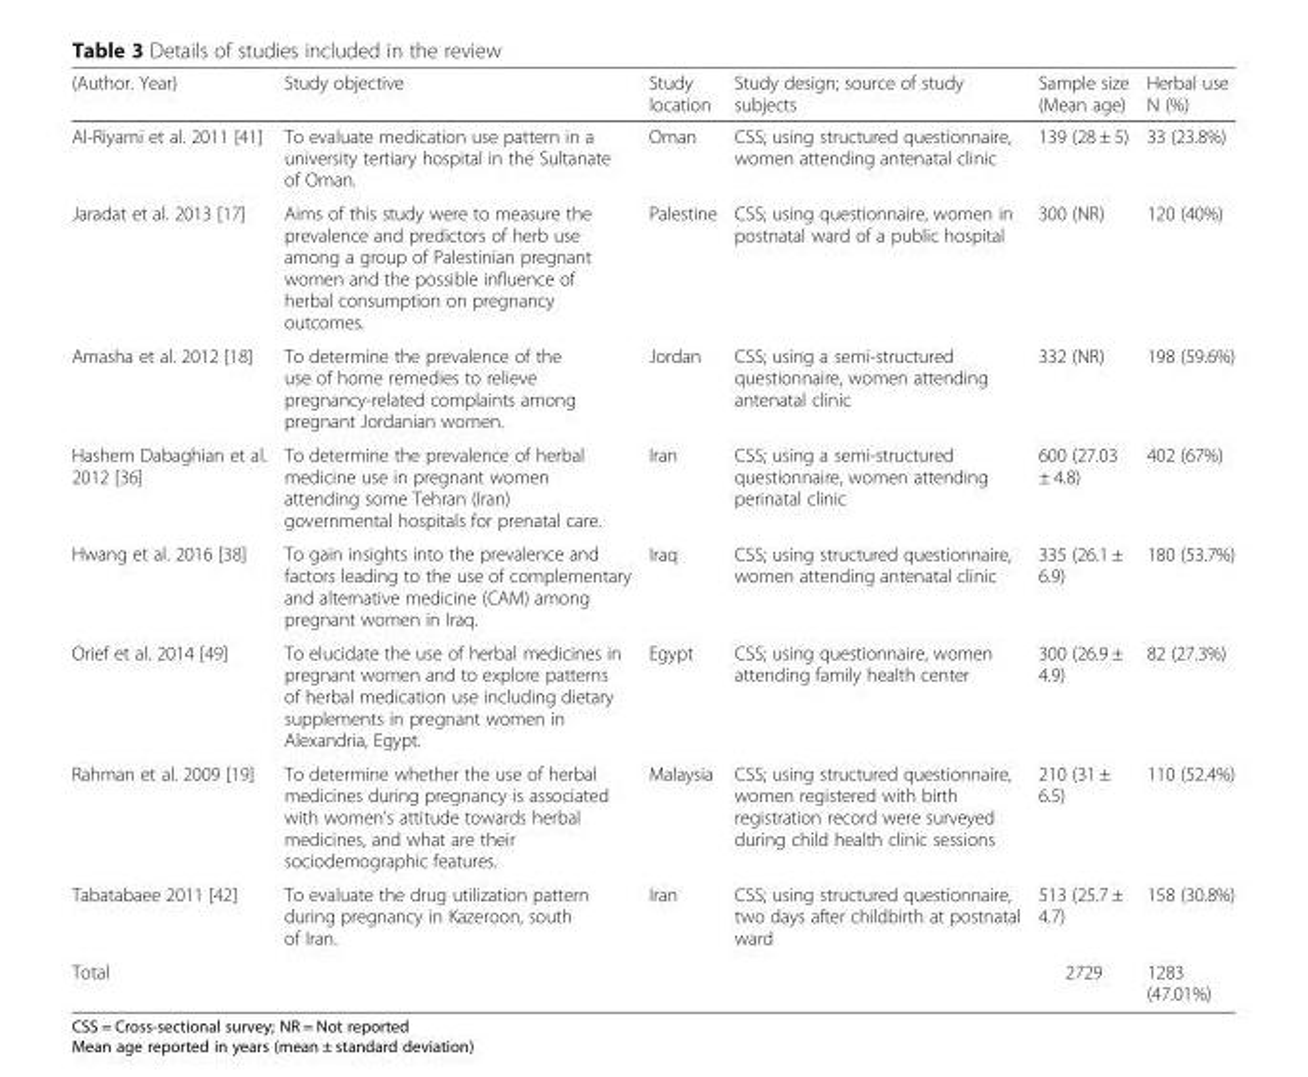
<table><thead><tr><td>(Author. Year)</td><td>Study objective</td><td>Study location</td><td>Study design; source of study subjects</td><td>Sample size (Mean age)</td><td>Herbal use N (%)</td></tr></thead><tbody><tr><td>Al-Riyami et al. 2011 [41]</td><td>To evaluate medication use pattern in a university tertiary hospital in the Sultanate of Oman.</td><td>Oman</td><td>CSS; using structured questionnaire, women attending antenatal clinic</td><td>139 (28 ± 5)</td><td>33 (23.8%)</td></tr><tr><td>Jaradat et al. 2013 [17]</td><td>Aims of this study were to measure the prevalence and predictors of herb use among a group of Palestinian pregnant women and the possible influence of herbal consumption on pregnancy outcomes.</td><td>Palestine</td><td>CSS; using questionnaire, women in postnatal ward of a public hospital</td><td>300 (NR)</td><td>120 (40%)</td></tr><tr><td>Amasha et al. 2012 [18]</td><td>To determine the prevalence of the use of home remedies to relieve pregnancy-related complaints among pregnant Jordanian women.</td><td>Jordan</td><td>CSS; using a semi-structured questionnaire, women attending antenatal clinic</td><td>332 (NR)</td><td>198 (59.6%)</td></tr><tr><td>Hashem Dabaghian et al. 2012 [36]</td><td>To determine the prevalence of herbal medicine use in pregnant women attending some Tehran (Iran) governmental hospitals for prenatal care.</td><td>Iran</td><td>CSS; using a semi-structured questionnaire, women attending perinatal clinic</td><td>600 (27.03 ± 4.8)</td><td>402 (67%)</td></tr><tr><td>Hwang et al. 2016 [38]</td><td>To gain insights into the prevalence and factors leading to the use of complementary and alternative medicine (CAM) among pregnant women in Iraq.</td><td>Iraq</td><td>CSS; using structured questionnaire, women attending antenatal clinic</td><td>335 (26.1 ± 6.9)</td><td>180 (53.7%)</td></tr><tr><td>Orief et al. 2014 [49]</td><td>To elucidate the use of herbal medicines in pregnant women and to explore patterns of herbal medication use including dietary supplements in pregnant women in Alexandria, Egypt.</td><td>Egypt</td><td>CSS; using questionnaire, women attending family health center</td><td>300 (26.9 ± 4.9)</td><td>82 (27.3%)</td></tr><tr><td>Rahman et al. 2009 [19]</td><td>To determine whether the use of herbal medicines during pregnancy is associated with women’s attitude towards herbal medicines, and what are their sociodemographic features.</td><td>Malaysia</td><td>CSS; using structured questionnaire, women registered with birth registration record were surveyed during child health clinic sessions</td><td>210 (31 ± 6.5)</td><td>110 (52.4%)</td></tr><tr><td>Tabatabaee 2011 [42]</td><td>To evaluate the drug utilization pattern during pregnancy in Kazeroon, south of Iran.</td><td>Iran</td><td>CSS; using structured questionnaire, two days after childbirth at postnatal ward</td><td>513 (25.7 ± 4.7)</td><td>158 (30.8%)</td></tr><tr><td colspan="2">Total</td><td colspan="2"></td><td>2729</td><td>1283 (47.01%)</td></tr></tbody></table>